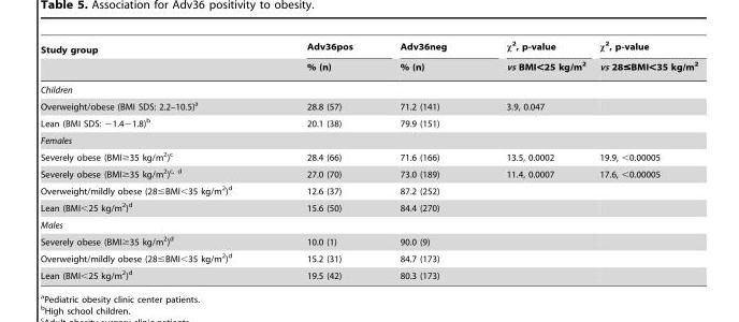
<table><thead><tr><td rowspan="2">Study group</td><td rowspan="2">Adv36pos % (n)</td><td rowspan="2">Adv36neg % (n)</td><td rowspan="2">χ<sup>2</sup>, p-value vs BMI&lt;25 kg/m<sup>2</sup></td><td rowspan="2">χ<sup>2</sup>, p-value vs 28≤BMI&lt;35 kg/m<sup>2</sup></td></tr><tr></tr></thead><tbody><tr><td colspan="5">Children</td></tr><tr><td>Overweight/obese (BMI SDS: 2.2–10.5)<sup>a</sup></td><td>28.8 (57)</td><td>71.2 (141)</td><td>3.9, 0.047</td><td></td></tr><tr><td>Lean (BMI SDS: −1.4−1.8)<sup>b</sup></td><td>20.1 (38)</td><td>79.9 (151)</td><td></td><td></td></tr><tr><td colspan="5">Females</td></tr><tr><td>Severely obese (BMI≥35 kg/m<sup>2</sup>)<sup>c</sup></td><td>28.4 (66)</td><td>71.6 (166)</td><td>13.5, 0.0002</td><td>19.9, &lt;0.00005</td></tr><tr><td>Severely obese (BMI≥35 kg/m<sup>2</sup>)c, d</td><td>27.0 (70)</td><td>73.0 (189)</td><td>11.4, 0.0007</td><td>17.6, &lt;0.00005</td></tr><tr><td>Overweight/mildly obese (28≤BMI&lt;35 kg/m<sup>2</sup>)<sup>d</sup></td><td>12.6 (37)</td><td>87.2 (252)</td><td></td><td></td></tr><tr><td>Lean (BMI&lt;25 kg/m<sup>2</sup>)<sup>d</sup></td><td>15.6 (50)</td><td>84.4 (270)</td><td></td><td></td></tr><tr><td colspan="5">Males</td></tr><tr><td>Severely obese (BMI≥35 kg/m<sup>2</sup>)<sup>d</sup></td><td>10.0 (1)</td><td>90.0 (9)</td><td></td><td></td></tr><tr><td>Overweight/mildly obese (28≤BMI&lt;35 kg/m<sup>2</sup>)<sup>d</sup></td><td>15.2 (31)</td><td>84.7 (173)</td><td></td><td></td></tr><tr><td>Lean (BMI&lt;25 kg/m<sup>2</sup>)<sup>d</sup></td><td>19.5 (42)</td><td>80.3 (173)</td><td></td><td></td></tr></tbody></table>